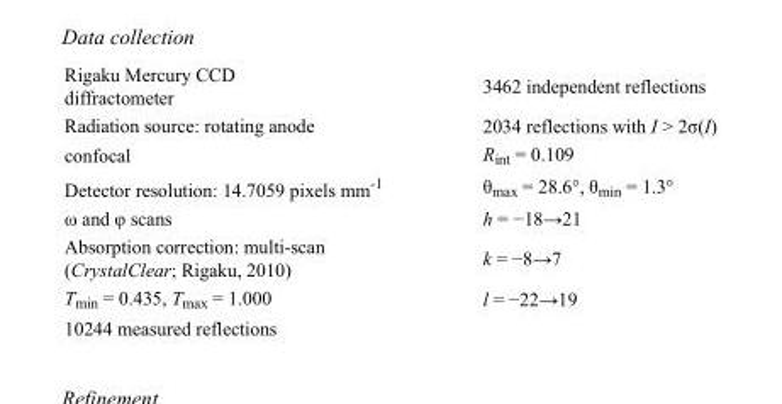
<table><tbody><tr><td>Rigaku Mercury CCD diffractometer</td><td>3462 independent reflections</td></tr><tr><td>Radiation source: rotating anode</td><td>2034 reflections with I &gt; 2σ(I)</td></tr><tr><td>confocal</td><td>R<sub>int</sub> = 0.109</td></tr><tr><td>Detector resolution: 14.7059 pixels mm<sup>-1</sup></td><td>θ<sub>max</sub> = 28.6°, θ<sub>min</sub> = 1.3°</td></tr><tr><td>ω and φ scans</td><td>h = −18→21</td></tr><tr><td>Absorption correction: multi-scan (CrystalClear; Rigaku, 2010)</td><td>k = −8→7</td></tr><tr><td>T<sub>min</sub> = 0.435, T<sub>max</sub> = 1.000</td><td>l = −22→19</td></tr><tr><td>10244 measured reflections</td><td></td></tr></tbody></table>